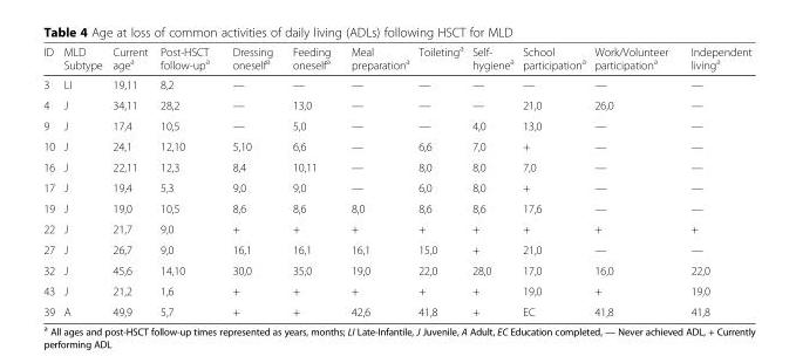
<table><thead><tr><td>ID</td><td>MLD Subtype</td><td>Current age<sup>a</sup></td><td>Post-HSCT follow-up<sup>a</sup></td><td>Dressing oneself<sup>a</sup></td><td>Feeding oneself<sup>a</sup></td><td>Meal preparation<sup>a</sup></td><td>Toileting<sup>a</sup></td><td>Self- hygiene<sup>a</sup></td><td>School participation<sup>a</sup></td><td>Work/Volunteer participation<sup>a</sup></td><td>Independent living<sup>a</sup></td></tr></thead><tbody><tr><td>3</td><td>LI</td><td>19,11</td><td>8,2</td><td>—</td><td>—</td><td>—</td><td>—</td><td>—</td><td>—</td><td>—</td><td>—</td></tr><tr><td>4</td><td>J</td><td>34,11</td><td>28,2</td><td>—</td><td>13,0</td><td>—</td><td>—</td><td>—</td><td>21,0</td><td>26,0</td><td>—</td></tr><tr><td>9</td><td>J</td><td>17,4</td><td>10,5</td><td>—</td><td>5,0</td><td>—</td><td>—</td><td>4,0</td><td>13,0</td><td>—</td><td>—</td></tr><tr><td>10</td><td>J</td><td>24,1</td><td>12,10</td><td>5,10</td><td>6,6</td><td>—</td><td>6,6</td><td>7,0</td><td>+</td><td>—</td><td>—</td></tr><tr><td>16</td><td>J</td><td>22,11</td><td>12,3</td><td>8,4</td><td>10,11</td><td>—</td><td>8,0</td><td>8,0</td><td>7,0</td><td>—</td><td>—</td></tr><tr><td>17</td><td>J</td><td>19,4</td><td>5,3</td><td>9,0</td><td>9,0</td><td>—</td><td>6,0</td><td>8,0</td><td>+</td><td>—</td><td>—</td></tr><tr><td>19</td><td>J</td><td>19,0</td><td>10,5</td><td>8,6</td><td>8,6</td><td>8,0</td><td>8,6</td><td>8,6</td><td>17,6</td><td>—</td><td>—</td></tr><tr><td>22</td><td>J</td><td>21,7</td><td>9,0</td><td>+</td><td>+</td><td>+</td><td>+</td><td>+</td><td>+</td><td>+</td><td>+</td></tr><tr><td>27</td><td>J</td><td>26,7</td><td>9,0</td><td>16,1</td><td>16,1</td><td>16,1</td><td>15,0</td><td>+</td><td>21,0</td><td>—</td><td>—</td></tr><tr><td>32</td><td>J</td><td>45,6</td><td>14,10</td><td>30,0</td><td>35,0</td><td>19,0</td><td>22,0</td><td>28,0</td><td>17,0</td><td>16,0</td><td>22,0</td></tr><tr><td>43</td><td>J</td><td>21,2</td><td>1,6</td><td>+</td><td>+</td><td>+</td><td>+</td><td>+</td><td>19,0</td><td>+</td><td>19,0</td></tr><tr><td>39</td><td>A</td><td>49,9</td><td>5,7</td><td>+</td><td>+</td><td>42,6</td><td>41,8</td><td>+</td><td>EC</td><td>41,8</td><td>41,8</td></tr></tbody></table>